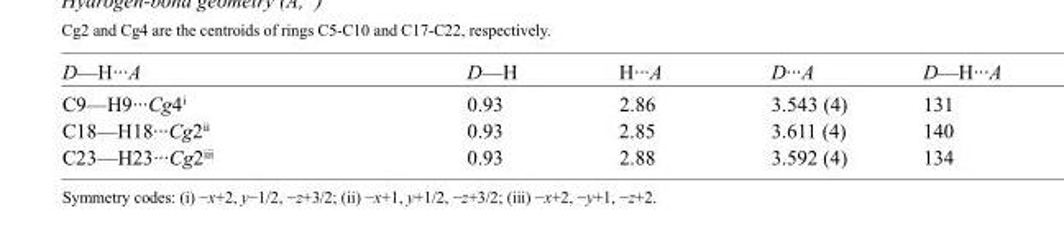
<table><tbody><tr><td>D—H···A</td><td>D—H</td><td>H···A</td><td>D···A</td><td>D—H···A</td></tr><tr><td>C9—H9···Cg4<sup>i</sup></td><td>0.93</td><td>2.86</td><td>3.543 (4)</td><td>131</td></tr><tr><td>C18—H18···Cg2<sup>ii</sup></td><td>0.93</td><td>2.85</td><td>3.611 (4)</td><td>140</td></tr><tr><td>C23—H23···Cg2<sup>iii</sup></td><td>0.93</td><td>2.88</td><td>3.592 (4)</td><td>134</td></tr></tbody></table>